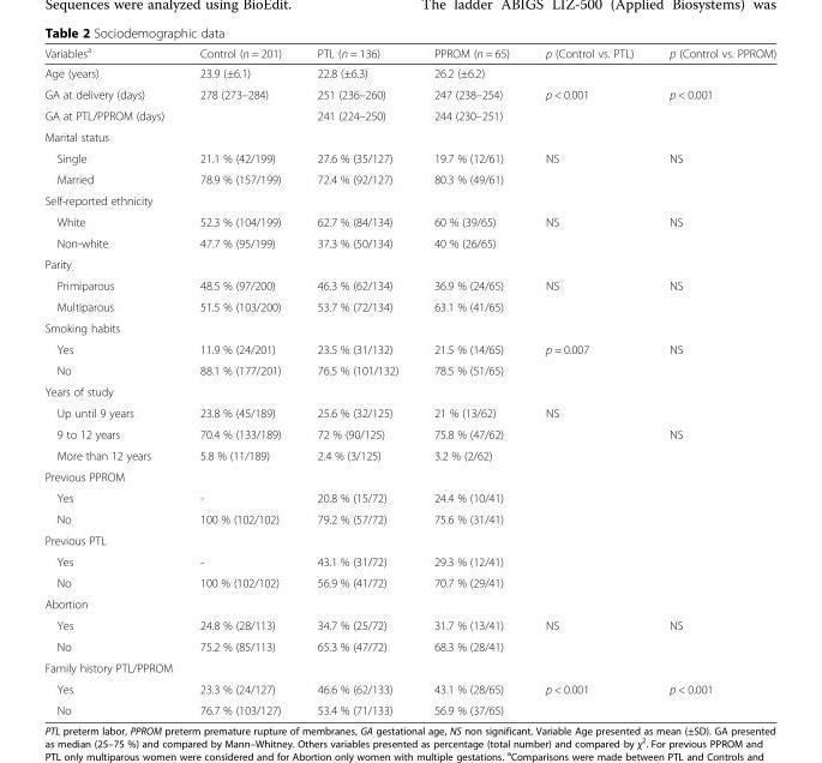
<table><thead><tr><td>Variables<sup>a</sup></td><td>Control (n = 201)</td><td>PTL (n = 136)</td><td>PPROM (n = 65)</td><td>p (Control vs. PTL)</td><td>p (Control vs. PPROM)</td></tr></thead><tbody><tr><td>Age (years)</td><td>23.9 (±6.1)</td><td>22.8 (±6.3)</td><td>26.2 (±6.2)</td><td></td><td></td></tr><tr><td>GA at delivery (days)</td><td>278 (273–284)</td><td>251 (236–260)</td><td>247 (238–254)</td><td>p &lt; 0.001</td><td>p &lt; 0.001</td></tr><tr><td>GA at PTL/PPROM (days)</td><td></td><td>241 (224–250)</td><td>244 (230–251)</td><td></td><td></td></tr><tr><td colspan="6">Marital status</td></tr><tr><td>Single</td><td>21.1 % (42/199)</td><td>27.6 % (35/127)</td><td>19.7 % (12/61)</td><td rowspan="2">NS</td><td rowspan="2">NS</td></tr><tr><td>Married</td><td>78.9 % (157/199)</td><td>72.4 % (92/127)</td><td>80.3 % (49/61)</td></tr><tr><td colspan="6">Self-reported ethnicity</td></tr><tr><td>White</td><td>52.3 % (104/199)</td><td>62.7 % (84/134)</td><td>60 % (39/65)</td><td rowspan="2">NS</td><td rowspan="2">NS</td></tr><tr><td>Non-white</td><td>47.7 % (95/199)</td><td>37.3 % (50/134)</td><td>40 % (26/65)</td></tr><tr><td colspan="6">Parity</td></tr><tr><td>Primiparous</td><td>48.5 % (97/200)</td><td>46.3 % (62/134)</td><td>36.9 % (24/65)</td><td rowspan="2">NS</td><td rowspan="2">NS</td></tr><tr><td>Multiparous</td><td>51.5 % (103/200)</td><td>53.7 % (72/134)</td><td>63.1 % (41/65)</td></tr><tr><td colspan="6">Smoking habits</td></tr><tr><td>Yes</td><td>11.9 % (24/201)</td><td>23.5 % (31/132)</td><td>21.5 % (14/65)</td><td rowspan="2">p = 0.007</td><td rowspan="2">NS</td></tr><tr><td>No</td><td>88.1 % (177/201)</td><td>76.5 % (101/132)</td><td>78.5 % (51/65)</td></tr><tr><td colspan="6">Years of study</td></tr><tr><td>Up until 9 years</td><td>23.8 % (45/189)</td><td>25.6 % (32/125)</td><td>21 % (13/62)</td><td rowspan="3">NS</td><td></td></tr><tr><td>9 to 12 years</td><td>70.4 % (133/189)</td><td>72 % (90/125)</td><td>75.8 % (47/62)</td><td>NS</td></tr><tr><td>More than 12 years</td><td>5.8 % (11/189)</td><td>2.4 % (3/125)</td><td>3.2 % (2/62)</td><td></td></tr><tr><td colspan="6">Previous PPROM</td></tr><tr><td>Yes</td><td>-</td><td>20.8 % (15/72)</td><td>24.4 % (10/41)</td><td rowspan="2"></td><td></td></tr><tr><td>No</td><td>100 % (102/102)</td><td>79.2 % (57/72)</td><td>75.6 % (31/41)</td><td></td></tr><tr><td colspan="6">Previous PTL</td></tr><tr><td>Yes</td><td>-</td><td>43.1 % (31/72)</td><td>29.3 % (12/41)</td><td rowspan="2"></td><td></td></tr><tr><td>No</td><td>100 % (102/102)</td><td>56.9 % (41/72)</td><td>70.7 % (29/41)</td><td></td></tr><tr><td colspan="6">Abortion</td></tr><tr><td>Yes</td><td>24.8 % (28/113)</td><td>34.7 % (25/72)</td><td>31.7 % (13/41)</td><td rowspan="2">NS</td><td rowspan="2">NS</td></tr><tr><td>No</td><td>75.2 % (85/113)</td><td>65.3 % (47/72)</td><td>68.3 % (28/41)</td></tr><tr><td colspan="6">Family history PTL/PPROM</td></tr><tr><td>Yes</td><td>23.3 % (24/127)</td><td>46.6 % (62/133)</td><td>43.1 % (28/65)</td><td rowspan="2">p &lt; 0.001</td><td rowspan="2">p &lt; 0.001</td></tr><tr><td>No</td><td>76.7 % (103/127)</td><td>53.4 % (71/133)</td><td>56.9 % (37/65)</td></tr></tbody></table>